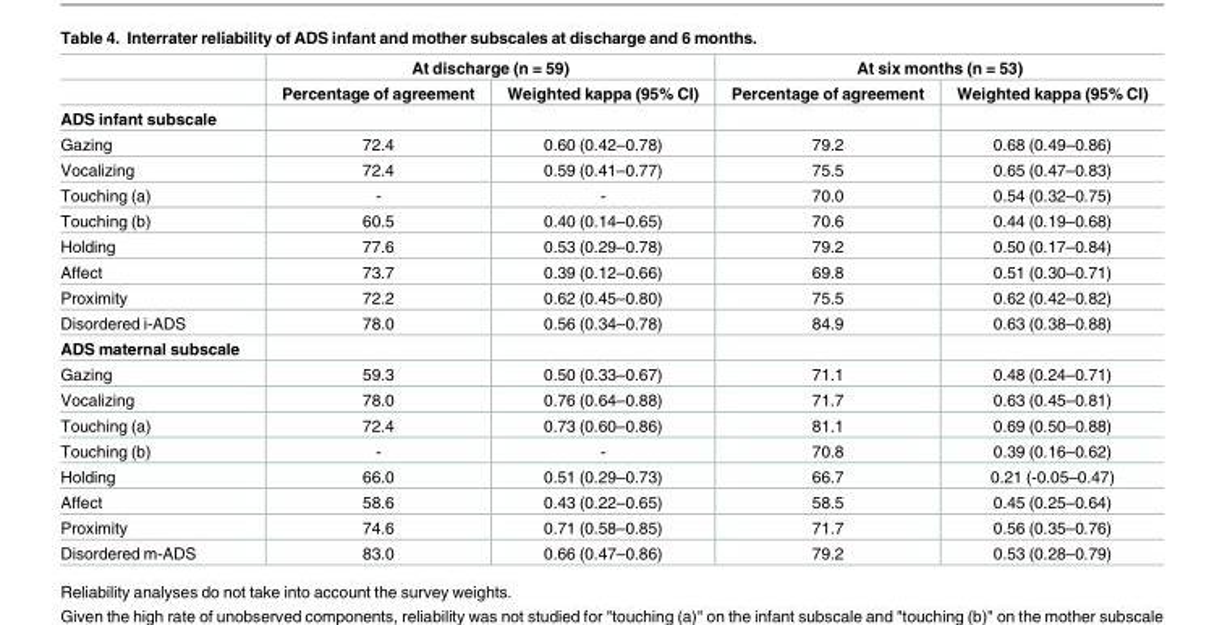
<table><thead><tr><td rowspan="2"></td><td colspan="2">At discharge (n = 59)</td><td colspan="2">At six months (n = 53)</td></tr><tr><td>Percentage of agreement</td><td>Weighted kappa (95% CI)</td><td>Percentage of agreement</td><td>Weighted kappa (95% CI)</td></tr></thead><tbody><tr><td colspan="5">ADS infant subscale</td></tr><tr><td>Gazing</td><td>72.4</td><td>0.60 (0.42–0.78)</td><td>79.2</td><td>0.68 (0.49–0.86)</td></tr><tr><td>Vocalizing</td><td>72.4</td><td>0.59 (0.41–0.77)</td><td>75.5</td><td>0.65 (0.47–0.83)</td></tr><tr><td>Touching (a)</td><td>-</td><td>-</td><td>70.0</td><td>0.54 (0.32–0.75)</td></tr><tr><td>Touching (b)</td><td>60.5</td><td>0.40 (0.14–0.65)</td><td>70.6</td><td>0.44 (0.19–0.68)</td></tr><tr><td>Holding</td><td>77.6</td><td>0.53 (0.29–0.78)</td><td>79.2</td><td>0.50 (0.17–0.84)</td></tr><tr><td>Affect</td><td>73.7</td><td>0.39 (0.12–0.66)</td><td>69.8</td><td>0.51 (0.30–0.71)</td></tr><tr><td>Proximity</td><td>72.2</td><td>0.62 (0.45–0.80)</td><td>75.5</td><td>0.62 (0.42–0.82)</td></tr><tr><td>Disordered i-ADS</td><td>78.0</td><td>0.56 (0.34–0.78)</td><td>84.9</td><td>0.63 (0.38–0.88)</td></tr><tr><td colspan="5">ADS maternal subscale</td></tr><tr><td>Gazing</td><td>59.3</td><td>0.50 (0.33–0.67)</td><td>71.1</td><td>0.48 (0.24–0.71)</td></tr><tr><td>Vocalizing</td><td>78.0</td><td>0.76 (0.64–0.88)</td><td>71.7</td><td>0.63 (0.45–0.81)</td></tr><tr><td>Touching (a)</td><td>72.4</td><td>0.73 (0.60–0.86)</td><td>81.1</td><td>0.69 (0.50–0.88)</td></tr><tr><td>Touching (b)</td><td>-</td><td>-</td><td>70.8</td><td>0.39 (0.16–0.62)</td></tr><tr><td>Holding</td><td>66.0</td><td>0.51 (0.29–0.73)</td><td>66.7</td><td>0.21 (-0.05–0.47)</td></tr><tr><td>Affect</td><td>58.6</td><td>0.43 (0.22–0.65)</td><td>58.5</td><td>0.45 (0.25–0.64)</td></tr><tr><td>Proximity</td><td>74.6</td><td>0.71 (0.58–0.85)</td><td>71.7</td><td>0.56 (0.35–0.76)</td></tr><tr><td>Disordered m-ADS</td><td>83.0</td><td>0.66 (0.47–0.86)</td><td>79.2</td><td>0.53 (0.28–0.79)</td></tr></tbody></table>